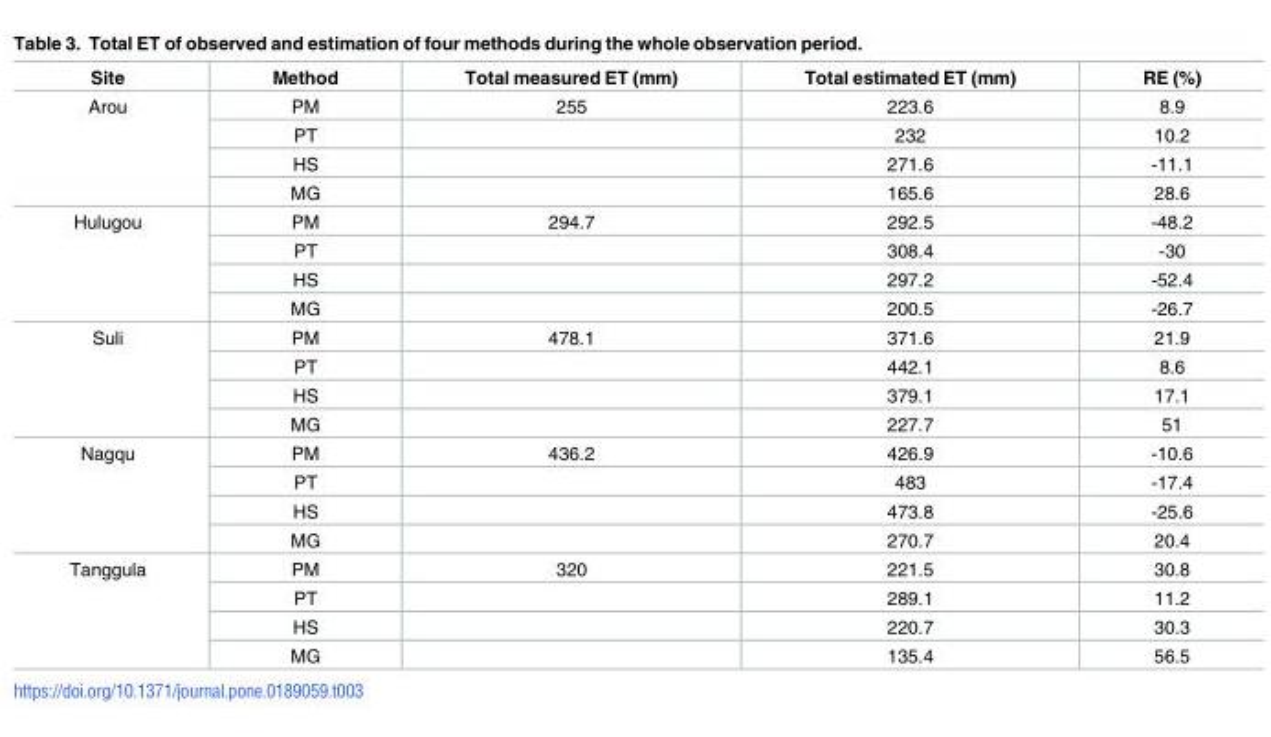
<table><thead><tr><td>Site</td><td>Method</td><td>Total measured ET (mm)</td><td>Total estimated ET (mm)</td><td>RE (%)</td></tr></thead><tbody><tr><td rowspan="4">Arou</td><td>PM</td><td>255</td><td>223.6</td><td>8.9</td></tr><tr><td>PT</td><td></td><td>232</td><td>10.2</td></tr><tr><td>HS</td><td></td><td>271.6</td><td>-11.1</td></tr><tr><td>MG</td><td></td><td>165.6</td><td>28.6</td></tr><tr><td rowspan="4">Hulugou</td><td>PM</td><td>294.7</td><td>292.5</td><td>-48.2</td></tr><tr><td>PT</td><td></td><td>308.4</td><td>-30</td></tr><tr><td>HS</td><td></td><td>297.2</td><td>-52.4</td></tr><tr><td>MG</td><td></td><td>200.5</td><td>-26.7</td></tr><tr><td rowspan="4">Suli</td><td>PM</td><td>478.1</td><td>371.6</td><td>21.9</td></tr><tr><td>PT</td><td></td><td>442.1</td><td>8.6</td></tr><tr><td>HS</td><td></td><td>379.1</td><td>17.1</td></tr><tr><td>MG</td><td></td><td>227.7</td><td>51</td></tr><tr><td rowspan="4">Nagqu</td><td>PM</td><td>436.2</td><td>426.9</td><td>-10.6</td></tr><tr><td>PT</td><td></td><td>483</td><td>-17.4</td></tr><tr><td>HS</td><td></td><td>473.8</td><td>-25.6</td></tr><tr><td>MG</td><td></td><td>270.7</td><td>20.4</td></tr><tr><td rowspan="4">Tanggula</td><td>PM</td><td>320</td><td>221.5</td><td>30.8</td></tr><tr><td>PT</td><td></td><td>289.1</td><td>11.2</td></tr><tr><td>HS</td><td></td><td>220.7</td><td>30.3</td></tr><tr><td>MG</td><td></td><td>135.4</td><td>56.5</td></tr></tbody></table>